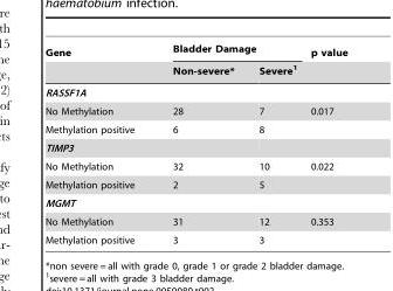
<table><thead><tr><td rowspan="2">Gene</td><td colspan="2">Bladder Damage</td><td rowspan="2">p value</td></tr><tr><td>Non-severe*</td><td>Severe<sup>1</sup></td></tr></thead><tbody><tr><td colspan="4">RASSF1A</td></tr><tr><td>No Methylation</td><td>28</td><td>7</td><td>0.017</td></tr><tr><td>Methylation positive</td><td>6</td><td>8</td><td></td></tr><tr><td colspan="4">TIMP3</td></tr><tr><td>No Methylation</td><td>32</td><td>10</td><td>0.022</td></tr><tr><td>Methylation positive</td><td>2</td><td>5</td><td></td></tr><tr><td colspan="4">MGMT</td></tr><tr><td>No Methylation</td><td>31</td><td>12</td><td>0.353</td></tr><tr><td>Methylation positive</td><td>3</td><td>3</td><td></td></tr></tbody></table>